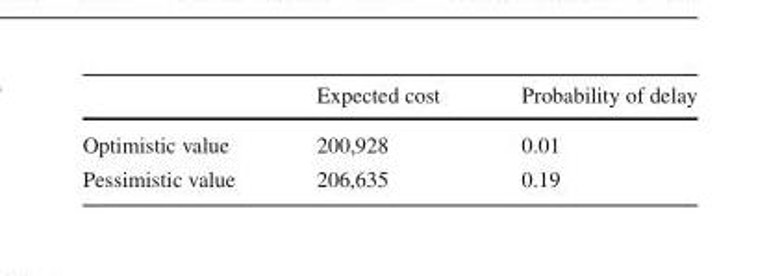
<table><thead><tr><td></td><td>Expected cost</td><td>Probability of delay</td></tr></thead><tbody><tr><td>Optimistic value</td><td>200,928</td><td>0.01</td></tr><tr><td>Pessimistic value</td><td>206,635</td><td>0.19</td></tr></tbody></table>